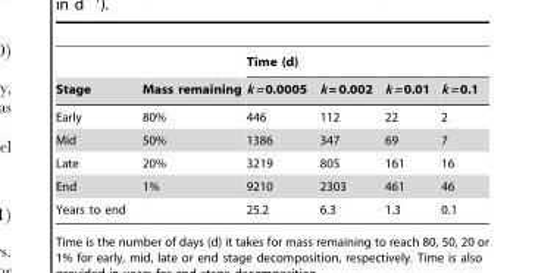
<table><thead><tr><td rowspan="2">Stage</td><td rowspan="2">Mass remaining</td><td colspan="4">Time (d)</td></tr><tr><td>k = 0.0005</td><td>k = 0.002</td><td>k = 0.01</td><td>k = 0.1</td></tr></thead><tbody><tr><td>Early</td><td>80%</td><td>446</td><td>112</td><td>22</td><td>2</td></tr><tr><td>Mid</td><td>50%</td><td>1386</td><td>347</td><td>69</td><td>7</td></tr><tr><td>Late</td><td>20%</td><td>3219</td><td>805</td><td>161</td><td>16</td></tr><tr><td>End</td><td>1%</td><td>9210</td><td>2303</td><td>461</td><td>46</td></tr><tr><td>Years to end</td><td></td><td>25.2</td><td>6.3</td><td>1.3</td><td>0.1</td></tr></tbody></table>